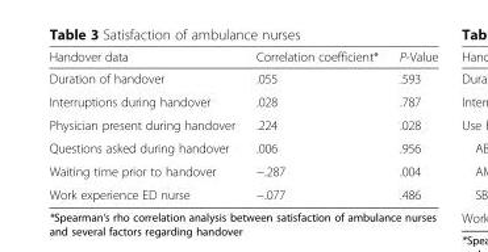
<table><thead><tr><td>Handover data</td><td>Correlation coefficient*</td><td>P-Value</td></tr></thead><tbody><tr><td>Duration of handover</td><td>.055</td><td>.593</td></tr><tr><td>Interruptions during handover</td><td>.028</td><td>.787</td></tr><tr><td>Physician present during handover</td><td>.224</td><td>.028</td></tr><tr><td>Questions asked during handover</td><td>.006</td><td>.956</td></tr><tr><td>Waiting time prior to handover</td><td>−.287</td><td>.004</td></tr><tr><td>Work experience ED nurse</td><td>−.077</td><td>.486</td></tr></tbody></table>